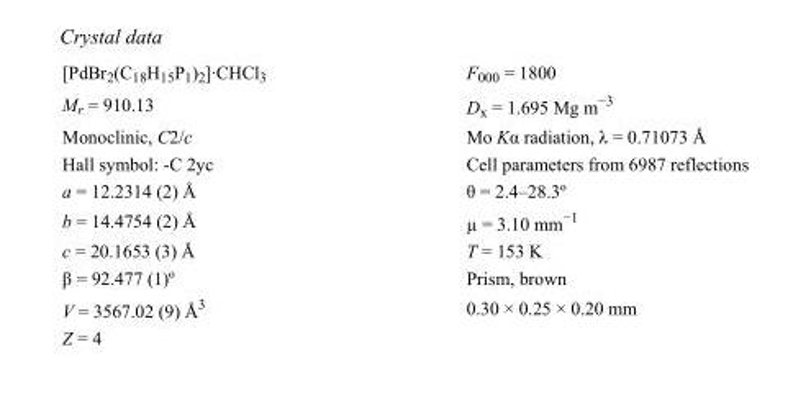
<table><tbody><tr><td>[PdBr2(C18H15P1)2]·CHCl3</td><td>F000 = 1800</td></tr><tr><td>M<sub>r</sub> = 910.13</td><td>D<sub>x</sub> = 1.695 Mg m<sup>−3</sup></td></tr><tr><td>Monoclinic, C2/c</td><td>Mo Kα radiation, λ = 0.71073 Å</td></tr><tr><td>Hall symbol: -C 2yc</td><td>Cell parameters from 6987 reflections</td></tr><tr><td>a = 12.2314 (2) Å</td><td>θ = 2.4–28.3º</td></tr><tr><td>b = 14.4754 (2) Å</td><td>µ = 3.10 mm<sup>−1</sup></td></tr><tr><td>c = 20.1653 (3) Å</td><td>T = 153 K</td></tr><tr><td>β = 92.477 (1)º</td><td>Prism, brown</td></tr><tr><td>V = 3567.02 (9) Å<sup>3</sup></td><td>0.30 × 0.25 × 0.20 mm</td></tr><tr><td>Z = 4</td><td></td></tr></tbody></table>